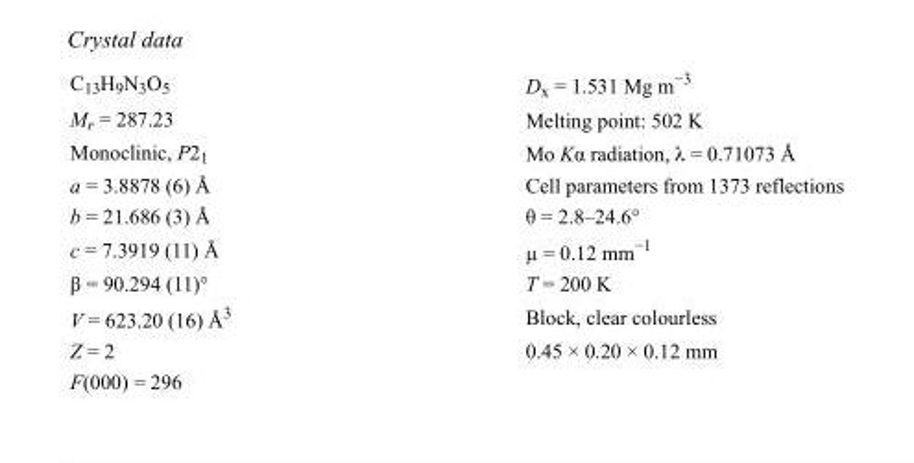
<table><tbody><tr><td>C<sub>13</sub>H<sub>9</sub>N<sub>3</sub>O<sub>5</sub></td><td>D<sub>x</sub> = 1.531 Mg m<sup>−3</sup></td></tr><tr><td>M<sub>r</sub> = 287.23</td><td>Melting point: 502 K</td></tr><tr><td>Monoclinic, P2<sub>1</sub></td><td>Mo Kα radiation, λ = 0.71073 Å</td></tr><tr><td>a = 3.8878 (6) Å</td><td>Cell parameters from 1373 reflections</td></tr><tr><td>b = 21.686 (3) Å</td><td>θ = 2.8–24.6°</td></tr><tr><td>c = 7.3919 (11) Å</td><td>µ = 0.12 mm<sup>−1</sup></td></tr><tr><td>β = 90.294 (11)°</td><td>T = 200 K</td></tr><tr><td>V = 623.20 (16) Å<sup>3</sup></td><td>Block, clear colourless</td></tr><tr><td>Z = 2</td><td>0.45 × 0.20 × 0.12 mm</td></tr><tr><td>F(000) = 296</td><td></td></tr></tbody></table>